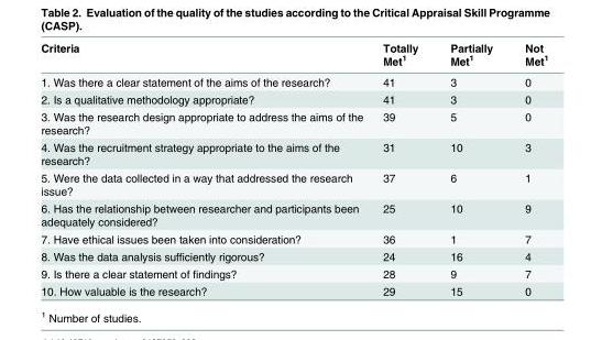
<table><thead><tr><td>Criteria</td><td>Totally Met<sup>1</sup></td><td>Partially Met<sup>1</sup></td><td>Not Met<sup>1</sup></td></tr></thead><tbody><tr><td>1. Was there a clear statement of the aims of the research?</td><td>41</td><td>3</td><td>0</td></tr><tr><td>2. Is a qualitative methodology appropriate?</td><td>41</td><td>3</td><td>0</td></tr><tr><td>3. Was the research design appropriate to address the aims of the research?</td><td>39</td><td>5</td><td>0</td></tr><tr><td>4. Was the recruitment strategy appropriate to the aims of the research?</td><td>31</td><td>10</td><td>3</td></tr><tr><td>5. Were the data collected in a way that addressed the research issue?</td><td>37</td><td>6</td><td>1</td></tr><tr><td>6. Has the relationship between researcher and participants been adequately considered?</td><td>25</td><td>10</td><td>9</td></tr><tr><td>7. Have ethical issues been taken into consideration?</td><td>36</td><td>1</td><td>7</td></tr><tr><td>8. Was the data analysis sufficiently rigorous?</td><td>24</td><td>16</td><td>4</td></tr><tr><td>9. Is there a clear statement of findings?</td><td>28</td><td>9</td><td>7</td></tr><tr><td>10. How valuable is the research?</td><td>29</td><td>15</td><td>0</td></tr></tbody></table>